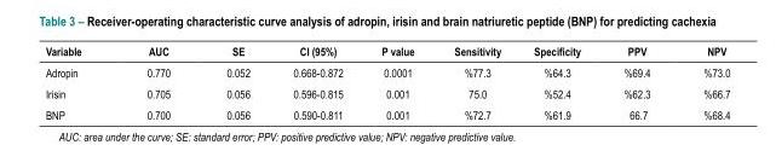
<table><thead><tr><td>Variable</td><td>AUC</td><td>SE</td><td>CI (95%)</td><td>P value</td><td>Sensitivity</td><td>Specificity</td><td>PPV</td><td>NPV</td></tr></thead><tbody><tr><td>Adropin</td><td>0.770</td><td>0.052</td><td>0.668-0.872</td><td>0.0001</td><td>%77.3</td><td>%64.3</td><td>%69.4</td><td>%73.0</td></tr><tr><td>Irisin</td><td>0.705</td><td>0.056</td><td>0.596-0.815</td><td>0.001</td><td>75.0</td><td>%52.4</td><td>%62.3</td><td>%66.7</td></tr><tr><td>BNP</td><td>0.700</td><td>0.056</td><td>0.590-0.811</td><td>0.001</td><td>%72.7</td><td>%61.9</td><td>66.7</td><td>%68.4</td></tr></tbody></table>